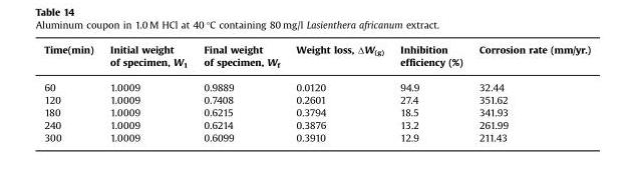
<table><thead><tr><td>Time(min)</td><td>Initial weight of specimen, W<sub>1</sub></td><td>Final weight of specimen, W<sub>f</sub></td><td>Weight loss, ΔW(g)</td><td>Inhibition efficiency (%)</td><td>Corrosion rate (mm/yr.)</td></tr></thead><tbody><tr><td>60</td><td>1.0009</td><td>0.9889</td><td>0.0120</td><td>94.9</td><td>32.44</td></tr><tr><td>120</td><td>1.0009</td><td>0.7408</td><td>0.2601</td><td>27.4</td><td>351.62</td></tr><tr><td>180</td><td>1.0009</td><td>0.6215</td><td>0.3794</td><td>18.5</td><td>341.93</td></tr><tr><td>240</td><td>1.0009</td><td>0.6214</td><td>0.3876</td><td>13.2</td><td>261.99</td></tr><tr><td>300</td><td>1.0009</td><td>0.6099</td><td>0.3910</td><td>12.9</td><td>211.43</td></tr></tbody></table>